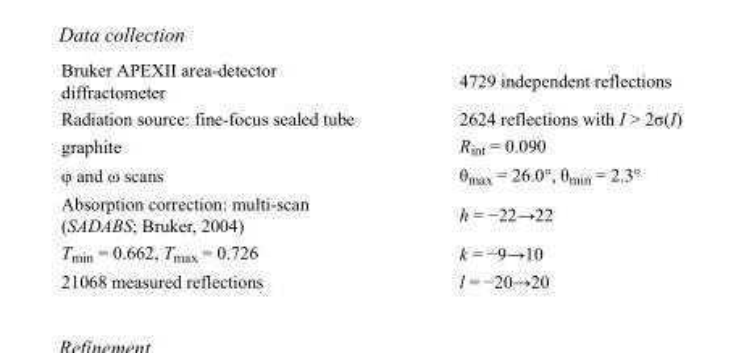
<table><tbody><tr><td>Bruker APEXII area-detector diffractometer</td><td>4729 independent reflections</td></tr><tr><td>Radiation source: fine-focus sealed tube</td><td>2624 reflections with I &gt; 2σ(I)</td></tr><tr><td>graphite</td><td>R<sub>int</sub> = 0.090</td></tr><tr><td>φ and ω scans</td><td>θ<sub>max</sub> = 26.0°, θ<sub>min</sub> = 2.3°</td></tr><tr><td>Absorption correction: multi-scan (SADABS; Bruker, 2004)</td><td>h = −22→22</td></tr><tr><td>T<sub>min</sub> = 0.662, T<sub>max</sub> = 0.726</td><td>k = −9→10</td></tr><tr><td>21068 measured reflections</td><td>l = −20→20</td></tr></tbody></table>